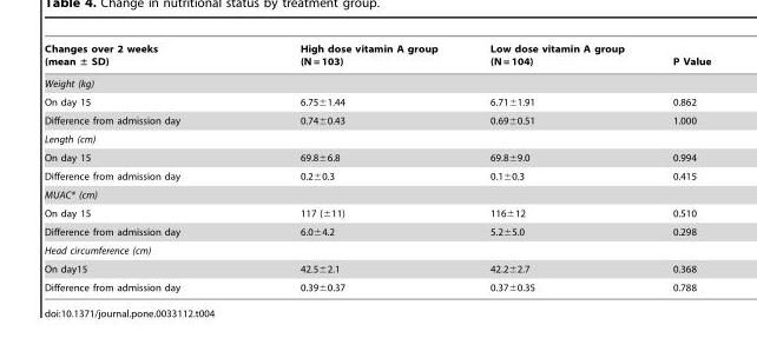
<table><thead><tr><td>Changes over 2 weeks (mean ± SD)</td><td>High dose vitamin A group (N = 103)</td><td>Low dose vitamin A group (N = 104)</td><td>P Value</td></tr></thead><tbody><tr><td colspan="4">Weight (kg)</td></tr><tr><td>On day 15</td><td>6.75±1.44</td><td>6.71±1.91</td><td>0.862</td></tr><tr><td>Difference from admission day</td><td>0.74±0.43</td><td>0.69±0.51</td><td>1.000</td></tr><tr><td colspan="4">Length (cm)</td></tr><tr><td>On day 15</td><td>69.8±6.8</td><td>69.8±9.0</td><td>0.994</td></tr><tr><td>Difference from admission day</td><td>0.2±0.3</td><td>0.1±0.3</td><td>0.415</td></tr><tr><td colspan="4">MUAC* (cm)</td></tr><tr><td>On day 15</td><td>117 (±11)</td><td>116±12</td><td>0.510</td></tr><tr><td>Difference from admission day</td><td>6.0±4.2</td><td>5.2±5.0</td><td>0.298</td></tr><tr><td colspan="4">Head circumference (cm)</td></tr><tr><td>On day15</td><td>42.5±2.1</td><td>42.2±2.7</td><td>0.368</td></tr><tr><td>Difference from admission day</td><td>0.39±0.37</td><td>0.37±0.35</td><td>0.788</td></tr></tbody></table>